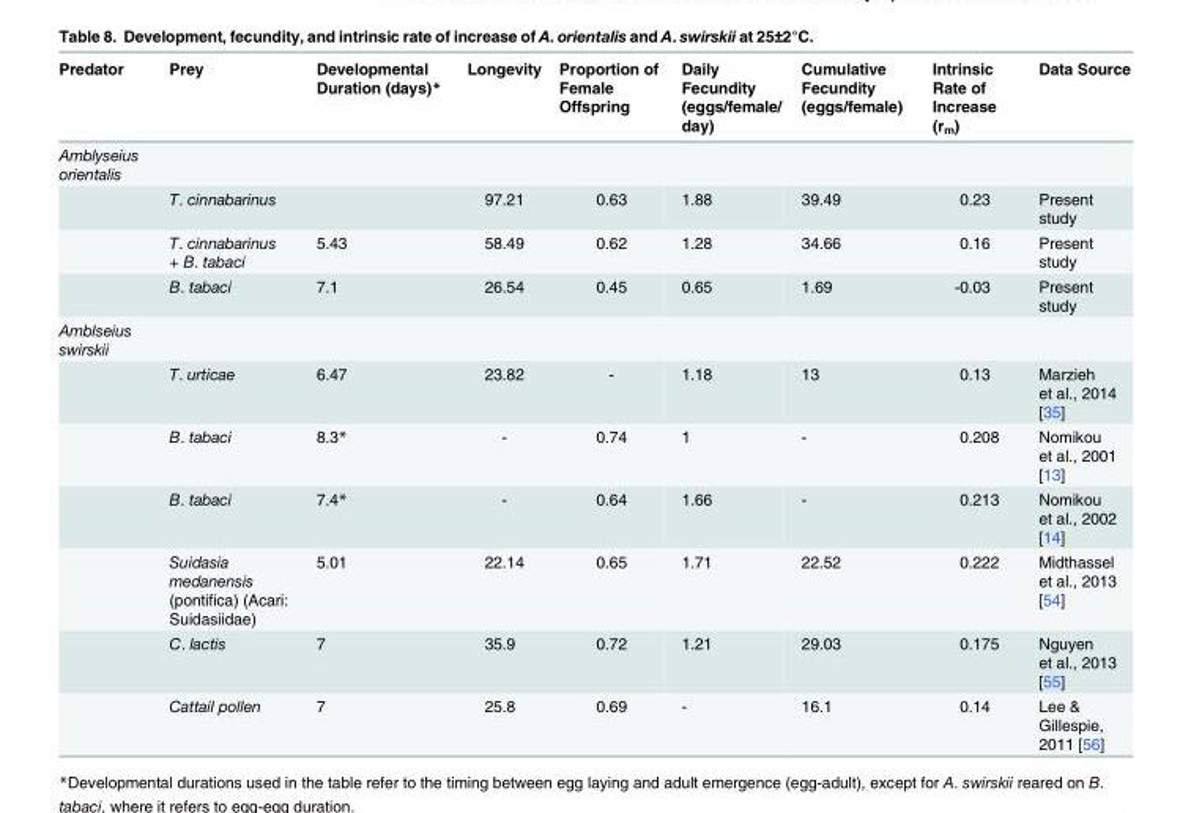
<table><thead><tr><td>Predator</td><td>Prey</td><td>Developmental Duration (days)*</td><td>Longevity</td><td>Proportion of Female Offspring</td><td>Daily Fecundity (eggs/female/ day)</td><td>Cumulative Fecundity (eggs/female)</td><td>Intrinsic Rate of Increase (r<sub>m</sub>)</td><td>Data Source</td></tr></thead><tbody><tr><td colspan="9">Amblyseius orientalis</td></tr><tr><td></td><td>T. cinnabarinus</td><td></td><td>97.21</td><td>0.63</td><td>1.88</td><td>39.49</td><td>0.23</td><td>Present study</td></tr><tr><td></td><td>T. cinnabarinus + B. tabaci</td><td>5.43</td><td>58.49</td><td>0.62</td><td>1.28</td><td>34.66</td><td>0.16</td><td>Present study</td></tr><tr><td></td><td>B. tabaci</td><td>7.1</td><td>26.54</td><td>0.45</td><td>0.65</td><td>1.69</td><td>-0.03</td><td>Present study</td></tr><tr><td colspan="9">Amblseius swirskii</td></tr><tr><td></td><td>T. urticae</td><td>6.47</td><td>23.82</td><td>-</td><td>1.18</td><td>13</td><td>0.13</td><td>Marzieh et al., 2014 [35]</td></tr><tr><td></td><td>B. tabaci</td><td>8.3*</td><td>-</td><td>0.74</td><td>1</td><td>-</td><td>0.208</td><td>Nomikou et al., 2001 [13]</td></tr><tr><td></td><td>B. tabaci</td><td>7.4*</td><td>-</td><td>0.64</td><td>1.66</td><td>-</td><td>0.213</td><td>Nomikou et al., 2002 [14]</td></tr><tr><td></td><td>Suidasia medanensis (pontifica) (Acari: Suidasiidae)</td><td>5.01</td><td>22.14</td><td>0.65</td><td>1.71</td><td>22.52</td><td>0.222</td><td>Midthassel et al., 2013 [54]</td></tr><tr><td></td><td>C. lactis</td><td>7</td><td>35.9</td><td>0.72</td><td>1.21</td><td>29.03</td><td>0.175</td><td>Nguyen et al., 2013 [55]</td></tr><tr><td></td><td>Cattail pollen</td><td>7</td><td>25.8</td><td>0.69</td><td>-</td><td>16.1</td><td>0.14</td><td>Lee &amp; Gillespie, 2011 [56]</td></tr></tbody></table>